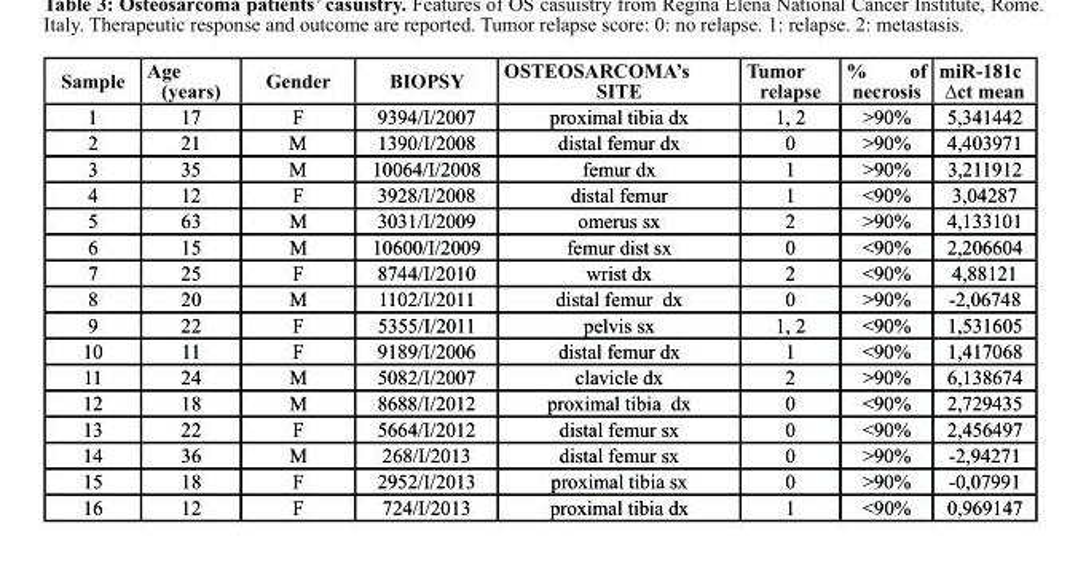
<table><thead><tr><td>Sample</td><td>Age (years)</td><td>Gender</td><td>BIOPSY</td><td>OSTEOSARCOMA’s sIte</td><td>Tumor relapse</td><td>% of necrosis</td><td>miR-181c ∆ct mean</td></tr></thead><tbody><tr><td>1</td><td>17</td><td>F</td><td>9394/I/2007</td><td>proximal tibia dx</td><td>1, 2</td><td>&gt;90%</td><td>5,341442</td></tr><tr><td>2</td><td>21</td><td>M</td><td>1390/I/2008</td><td>distal femur dx</td><td>0</td><td>&gt;90%</td><td>4,403971</td></tr><tr><td>3</td><td>35</td><td>M</td><td>10064/I/2008</td><td>femur dx</td><td>1</td><td>&gt;90%</td><td>3,211912</td></tr><tr><td>4</td><td>12</td><td>F</td><td>3928/I/2008</td><td>distal femur</td><td>1</td><td>&lt;90%</td><td>3,04287</td></tr><tr><td>5</td><td>63</td><td>M</td><td>3031/I/2009</td><td>omerus sx</td><td>2</td><td>&gt;90%</td><td>4,133101</td></tr><tr><td>6</td><td>15</td><td>M</td><td>10600/I/2009</td><td>femur dist sx</td><td>0</td><td>&lt;90%</td><td>2,206604</td></tr><tr><td>7</td><td>25</td><td>F</td><td>8744/I/2010</td><td>wrist dx</td><td>2</td><td>&lt;90%</td><td>4,88121</td></tr><tr><td>8</td><td>20</td><td>M</td><td>1102/I/2011</td><td>distal femur dx</td><td>0</td><td>&gt;90%</td><td>-2,06748</td></tr><tr><td>9</td><td>22</td><td>F</td><td>5355/I/2011</td><td>pelvis sx</td><td>1, 2</td><td>&lt;90%</td><td>1,531605</td></tr><tr><td>10</td><td>11</td><td>F</td><td>9189/I/2006</td><td>distal femur dx</td><td>1</td><td>&lt;90%</td><td>1,417068</td></tr><tr><td>11</td><td>24</td><td>M</td><td>5082/I/2007</td><td>clavicle dx</td><td>2</td><td>&gt;90%</td><td>6,138674</td></tr><tr><td>12</td><td>18</td><td>M</td><td>8688/I/2012</td><td>proximal tibia dx</td><td>0</td><td>&lt;90%</td><td>2,729435</td></tr><tr><td>13</td><td>22</td><td>F</td><td>5664/I/2012</td><td>distal femur sx</td><td>0</td><td>&lt;90%</td><td>2,456497</td></tr><tr><td>14</td><td>36</td><td>M</td><td>268/I/2013</td><td>distal femur sx</td><td>0</td><td>&gt;90%</td><td>-2,94271</td></tr><tr><td>15</td><td>18</td><td>F</td><td>2952/I/2013</td><td>proximal tibia sx</td><td>0</td><td>&gt;90%</td><td>-0,07991</td></tr><tr><td>16</td><td>12</td><td>F</td><td>724/I/2013</td><td>proximal tibia dx</td><td>1</td><td>&lt;90%</td><td>0,969147</td></tr></tbody></table>